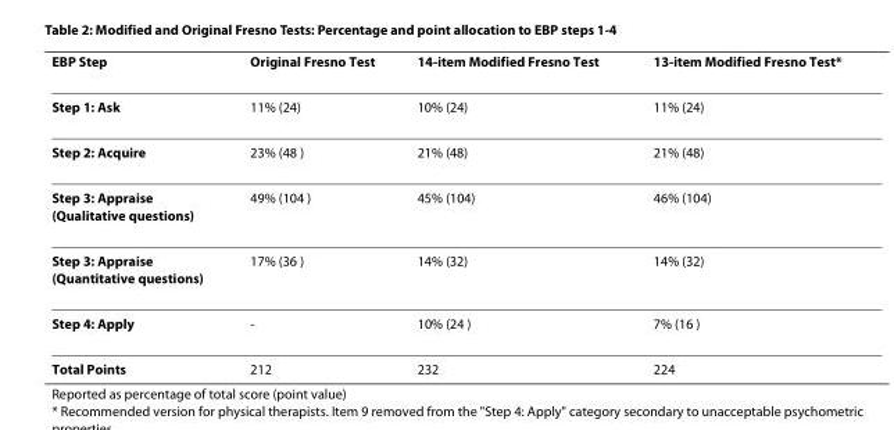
<table><thead><tr><td>EBP Step</td><td>Original Fresno Test</td><td>14-item Modified Fresno Test</td><td>13-item Modified Fresno Test*</td></tr></thead><tbody><tr><td>Step 1: Ask</td><td>11% (24)</td><td>10% (24)</td><td>11% (24)</td></tr><tr><td>Step 2: Acquire</td><td>23% (48 )</td><td>21% (48)</td><td>21% (48)</td></tr><tr><td>Step 3: Appraise (Qualitative questions)</td><td>49% (104 )</td><td>45% (104)</td><td>46% (104)</td></tr><tr><td>Step 3: Appraise (Quantitative questions)</td><td>17% (36 )</td><td>14% (32)</td><td>14% (32)</td></tr><tr><td>Step 4: Apply</td><td>-</td><td>10% (24 )</td><td>7% (16 )</td></tr><tr><td>Total Points</td><td>212</td><td>232</td><td>224</td></tr></tbody></table>